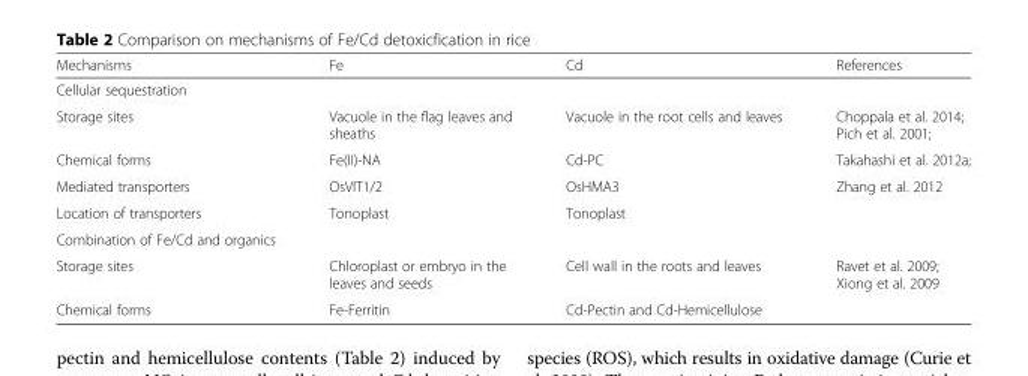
<table><thead><tr><td>Mechanisms</td><td>Fe</td><td>Cd</td><td>References</td></tr></thead><tbody><tr><td colspan="4">Cellular sequestration</td></tr><tr><td>Storage sites</td><td>Vacuole in the flag leaves and sheaths</td><td>Vacuole in the root cells and leaves</td><td>Choppala et al. 2014; Pich et al. 2001;</td></tr><tr><td>Chemical forms</td><td>Fe(II)-NA</td><td>Cd-PC</td><td>Takahashi et al. 2012a;</td></tr><tr><td>Mediated transporters</td><td>OsVIT1/2</td><td>OsHMA3</td><td>Zhang et al. 2012</td></tr><tr><td>Location of transporters</td><td>Tonoplast</td><td>Tonoplast</td><td></td></tr><tr><td colspan="4">Combination of Fe/Cd and organics</td></tr><tr><td>Storage sites</td><td>Chloroplast or embryo in the leaves and seeds</td><td>Cell wall in the roots and leaves</td><td>Ravet et al. 2009; Xiong et al. 2009</td></tr><tr><td>Chemical forms</td><td>Fe-Ferritin</td><td>Cd-Pectin and Cd-Hemicellulose</td><td></td></tr></tbody></table>